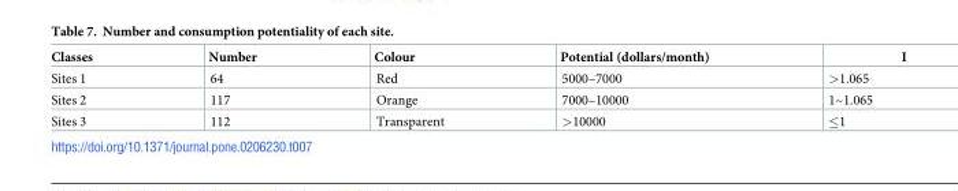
<table><thead><tr><td>Classes</td><td>Number</td><td>Colour</td><td>Potential (dollars/month)</td><td>I</td></tr></thead><tbody><tr><td>Sites 1</td><td>64</td><td>Red</td><td>5000–7000</td><td>&gt;1.065</td></tr><tr><td>Sites 2</td><td>117</td><td>Orange</td><td>7000–10000</td><td>1~1.065</td></tr><tr><td>Sites 3</td><td>112</td><td>Transparent</td><td>&gt;10000</td><td>≤1</td></tr></tbody></table>